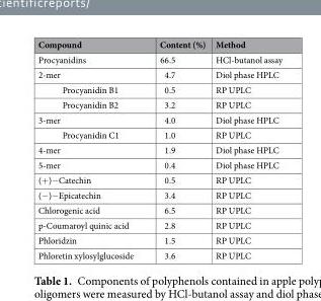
<table><thead><tr><td>Compound</td><td>Content (%)</td><td>Method</td></tr></thead><tbody><tr><td>Procyanidins</td><td>66.5</td><td>HCl-butanol assay</td></tr><tr><td>2-mer</td><td>4.7</td><td>Diol phase HPLC</td></tr><tr><td>Procyanidin B1</td><td>0.5</td><td>RP UPLC</td></tr><tr><td>Procyanidin B2</td><td>3.2</td><td>RP UPLC</td></tr><tr><td>3-mer</td><td>4.0</td><td>Diol phase HPLC</td></tr><tr><td>Procyanidin C1</td><td>1.0</td><td>RP UPLC</td></tr><tr><td>4-mer</td><td>1.9</td><td>Diol phase HPLC</td></tr><tr><td>5-mer</td><td>0.4</td><td>Diol phase HPLC</td></tr><tr><td>(+)−Catechin</td><td>0.5</td><td>RP UPLC</td></tr><tr><td>(−)−Epicatechin</td><td>3.4</td><td>RP UPLC</td></tr><tr><td>Chlorogenic acid</td><td>6.5</td><td>RP UPLC</td></tr><tr><td>p-Coumaroyl quinic acid</td><td>2.8</td><td>RP UPLC</td></tr><tr><td>Phloridzin</td><td>1.5</td><td>RP UPLC</td></tr><tr><td>Phloretin xylosylglucoside</td><td>3.6</td><td>RP UPLC</td></tr></tbody></table>